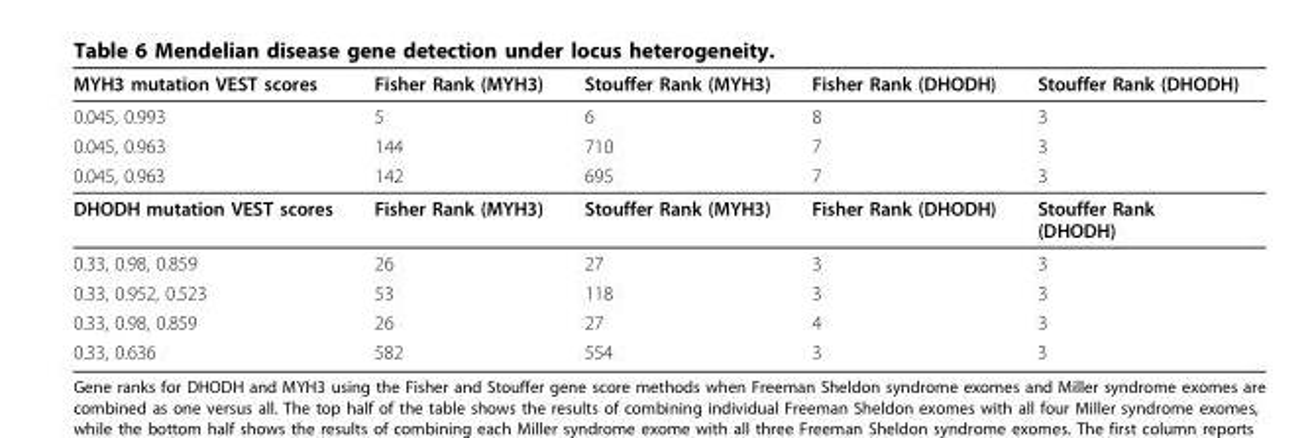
<table><thead><tr><td>MYH3 mutation VEST scores</td><td>Fisher Rank (MYH3)</td><td>Stouffer Rank (MYH3)</td><td>Fisher Rank (DHODH)</td><td>Stouffer Rank (DHODH)</td></tr></thead><tbody><tr><td>0.045, 0.993</td><td>5</td><td>6</td><td>8</td><td>3</td></tr><tr><td>0.045, 0.963</td><td>144</td><td>710</td><td>7</td><td>3</td></tr><tr><td>0.045, 0.963</td><td>142</td><td>695</td><td>7</td><td>3</td></tr><tr><td>DHODH mutation VEST scores</td><td>Fisher Rank (MYH3)</td><td>Stouffer Rank (MYH3)</td><td>Fisher Rank (DHODH)</td><td>Stouffer Rank (DHODH)</td></tr><tr><td>0.33, 0.98, 0.859</td><td>26</td><td>27</td><td>3</td><td>3</td></tr><tr><td>0.33, 0.952, 0.523</td><td>53</td><td>118</td><td>3</td><td>3</td></tr><tr><td>0.33, 0.98, 0.859</td><td>26</td><td>27</td><td>4</td><td>3</td></tr><tr><td>0.33, 0.636</td><td>582</td><td>554</td><td>3</td><td>3</td></tr></tbody></table>